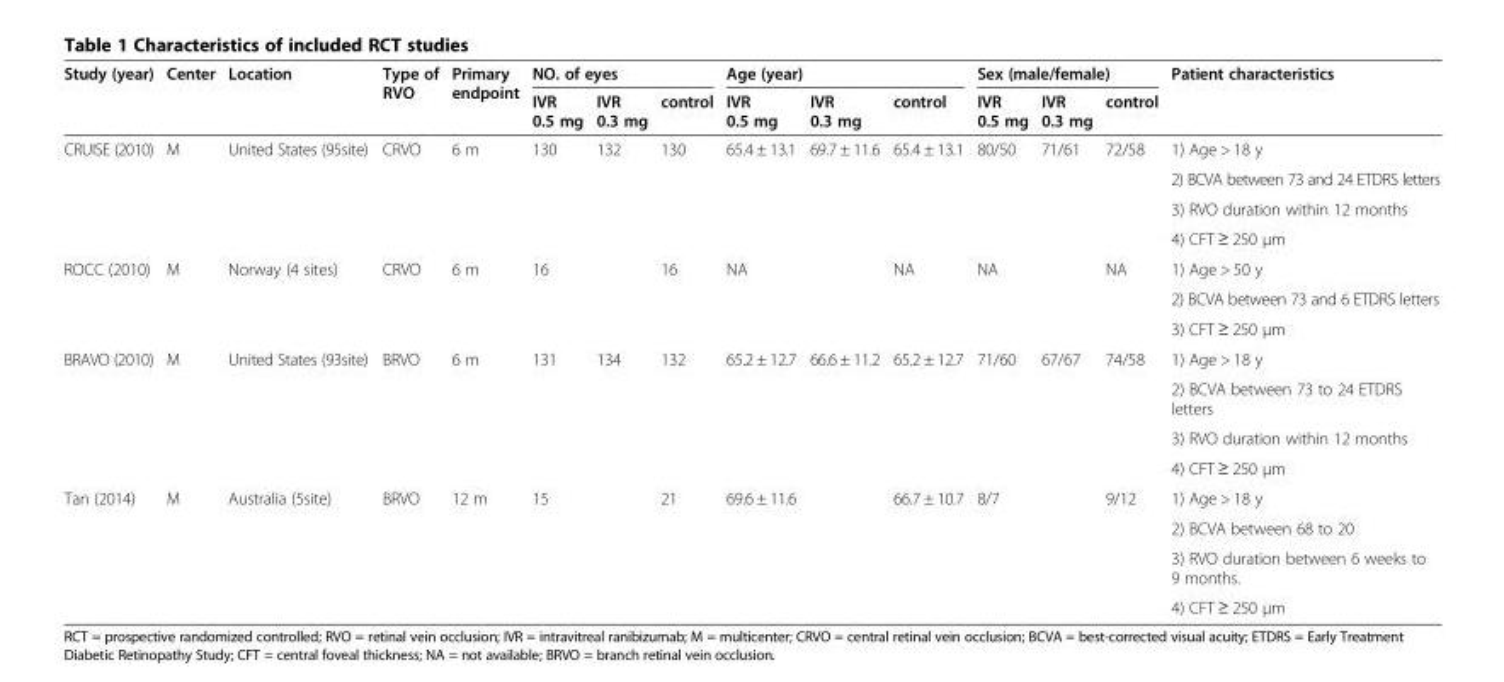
<table><thead><tr><td rowspan="2">Study (year)</td><td rowspan="2">Center</td><td rowspan="2">Location</td><td rowspan="2">Type of RVO</td><td rowspan="2">Primary endpoint</td><td colspan="3">NO. of eyes</td><td colspan="3">Age (year)</td><td colspan="3">Sex (male/female)</td><td rowspan="2">Patient characteristics</td></tr><tr><td>IVR 0.5 mg</td><td>IVR 0.3 mg</td><td>control</td><td>IVR 0.5 mg</td><td>IVR 0.3 mg</td><td>control</td><td>IVR 0.5 mg</td><td>IVR 0.3 mg</td><td>control</td></tr></thead><tbody><tr><td rowspan="4">CRUISE (2010)</td><td rowspan="4">M</td><td rowspan="4">United States (95site)</td><td rowspan="4">CRVO</td><td rowspan="4">6 m</td><td rowspan="4">130</td><td rowspan="4">132</td><td rowspan="4">130</td><td rowspan="4">65.4 ± 13.1</td><td rowspan="4">69.7 ± 11.6</td><td rowspan="4">65.4 ± 13.1</td><td rowspan="4">80/50</td><td rowspan="4">71/61</td><td rowspan="4">72/58</td><td>1) Age &gt; 18 y</td></tr><tr><td>2) BCVA between 73 and 24 ETDRS letters</td></tr><tr><td>3) RVO duration within 12 months</td></tr><tr><td>4) CFT ≥ 250 μm</td></tr><tr><td rowspan="3">ROCC (2010)</td><td rowspan="3">M</td><td rowspan="3">Norway (4 sites)</td><td rowspan="3">CRVO</td><td rowspan="3">6 m</td><td rowspan="3">16</td><td rowspan="3"></td><td rowspan="3">16</td><td rowspan="3">NA</td><td rowspan="3"></td><td rowspan="3">NA</td><td rowspan="3">NA</td><td rowspan="3"></td><td rowspan="3">NA</td><td>1) Age &gt; 50 y</td></tr><tr><td>2) BCVA between 73 and 6 ETDRS letters</td></tr><tr><td>3) CFT ≥ 250 μm</td></tr><tr><td rowspan="4">BRAVO (2010)</td><td rowspan="4">M</td><td rowspan="4">United States (93site)</td><td rowspan="4">BRVO</td><td rowspan="4">6 m</td><td rowspan="4">131</td><td rowspan="4">134</td><td rowspan="4">132</td><td rowspan="4">65.2 ± 12.7</td><td rowspan="4">66.6 ± 11.2</td><td rowspan="4">65.2 ± 12.7</td><td rowspan="4">71/60</td><td rowspan="4">67/67</td><td rowspan="4">74/58</td><td>1) Age &gt; 18 y</td></tr><tr><td>2) BCVA between 73 to 24 ETDRS letters</td></tr><tr><td>3) RVO duration within 12 months</td></tr><tr><td>4) CFT ≥ 250 μm</td></tr><tr><td rowspan="4">Tan (2014)</td><td rowspan="4">M</td><td rowspan="4">Australia (5site)</td><td rowspan="4">BRVO</td><td rowspan="4">12 m</td><td rowspan="4">15</td><td rowspan="4"></td><td rowspan="4">21</td><td rowspan="4">69.6 ± 11.6</td><td rowspan="4"></td><td rowspan="4">66.7 ± 10.7</td><td rowspan="4">8/7</td><td rowspan="4"></td><td rowspan="4">9/12</td><td>1) Age &gt; 18 y</td></tr><tr><td>2) BCVA between 68 to 20</td></tr><tr><td>3) RVO duration between 6 weeks to 9 months.</td></tr><tr><td>4) CFT ≥ 250 μm</td></tr></tbody></table>